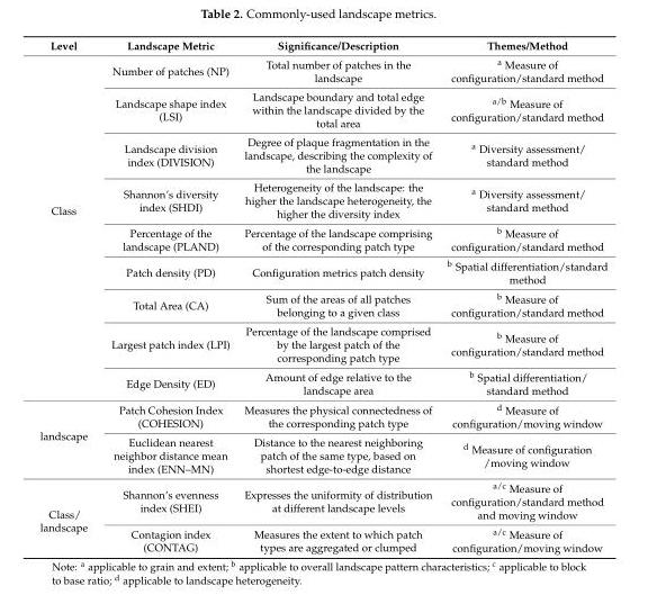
<table><thead><tr><td>Level</td><td>Landscape Metric</td><td>Significance/Description</td><td>Themes/Method</td></tr></thead><tbody><tr><td rowspan="9">Class</td><td>Number of patches (NP)</td><td>Total number of patches in the landscape</td><td><sup>a</sup> Measure of configuration/standard method</td></tr><tr><td>Landscape shape index (LSI)</td><td>Landscape boundary and total edge within the landscape divided by the total area</td><td><sup>a/b</sup> Measure of configuration/standard method</td></tr><tr><td>Landscape division index (DIVISION)</td><td>Degree of plaque fragmentation in the landscape, describing the complexity of the landscape</td><td><sup>a</sup> Diversity assessment/ standard method</td></tr><tr><td>Shannon’s diversity index (SHDI)</td><td>Heterogeneity of the landscape: the higher the landscape heterogeneity, the higher the diversity index</td><td><sup>a</sup> Diversity assessment/ standard method</td></tr><tr><td>Percentage of the landscape (PLAND)</td><td>Percentage of the landscape comprising of the corresponding patch type</td><td><sup>b</sup> Measure of configuration/standard method</td></tr><tr><td>Patch density (PD)</td><td>Configuration metrics patch density</td><td><sup>b</sup> Spatial differentiation/standard method</td></tr><tr><td>Total Area (CA)</td><td>Sum of the areas of all patches belonging to a given class</td><td><sup>b</sup> Measure of configuration/standard method</td></tr><tr><td>Largest patch index (LPI)</td><td>Percentage of the landscape comprised by the largest patch of the corresponding patch type</td><td><sup>b</sup> Measure of configuration/standard method</td></tr><tr><td>Edge Density (ED)</td><td>Amount of edge relative to the landscape area</td><td><sup>b</sup> Spatial differentiation/ standard method</td></tr><tr><td rowspan="2">landscape</td><td>Patch Cohesion Index (COHESION)</td><td>Measures the physical connectedness of the corresponding patch type</td><td><sup>d</sup> Measure of configuration/moving window</td></tr><tr><td>Euclidean nearest neighbor distance mean index (ENN–MN)</td><td>Distance to the nearest neighboring patch of the same type, based on shortest edge-to-edge distance</td><td><sup>d</sup> Measure of configuration /moving window</td></tr><tr><td rowspan="2">Class/ landscape</td><td>Shannon’s evenness index (SHEI)</td><td>Expresses the uniformity of distribution at different landscape levels</td><td><sup>a/c</sup> Measure of configuration/standard method and moving window</td></tr><tr><td>Contagion index (CONTAG)</td><td>Measures the extent to which patch types are aggregated or clumped</td><td><sup>a/c</sup> Measure of configuration/moving window</td></tr></tbody></table>